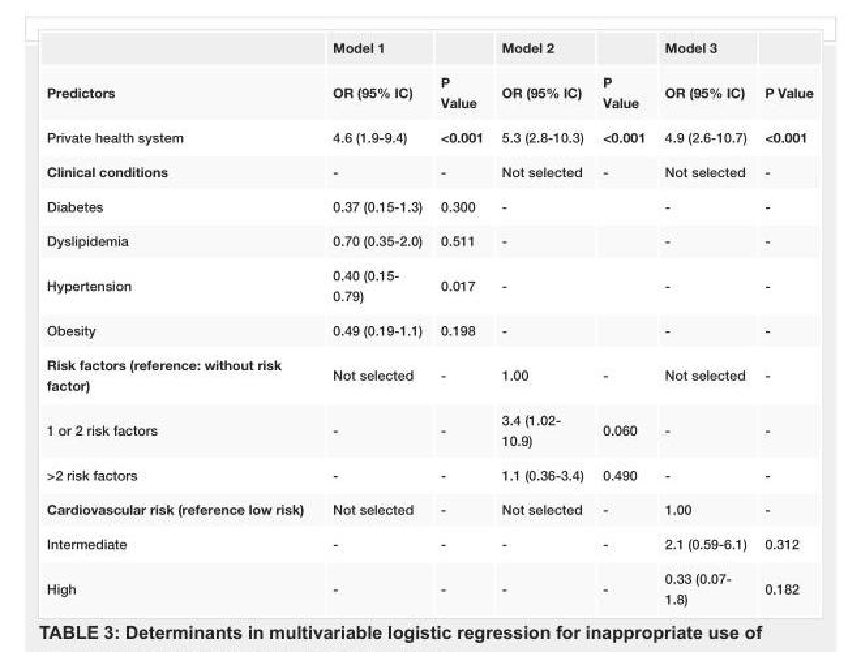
<table><thead><tr><td></td><td>Model 1</td><td></td><td>Model 2</td><td></td><td>Model 3</td><td></td></tr></thead><tbody><tr><td>Predictors</td><td>OR (95% IC)</td><td>P Value</td><td>OR (95% IC)</td><td>P Value</td><td>OR (95% IC)</td><td>P Value</td></tr><tr><td>Private health system</td><td>4.6 (1.9-9.4)</td><td>&lt;0.001</td><td>5.3 (2.8-10.3)</td><td>&lt;0.001</td><td>4.9 (2.6-10.7)</td><td>&lt;0.001</td></tr><tr><td>Clinical conditions</td><td>-</td><td>-</td><td>Not selected</td><td>-</td><td>Not selected</td><td>-</td></tr><tr><td>Diabetes</td><td>0.37 (0.15-1.3)</td><td>0.300</td><td>-</td><td></td><td>-</td><td>-</td></tr><tr><td>Dyslipidemia</td><td>0.70 (0.35-2.0)</td><td>0.511</td><td>-</td><td></td><td>-</td><td>-</td></tr><tr><td>Hypertension</td><td>0.40 (0.15- 0.79)</td><td>0.017</td><td>-</td><td></td><td>-</td><td>-</td></tr><tr><td>Obesity</td><td>0.49 (0.19-1.1)</td><td>0.198</td><td>-</td><td></td><td>-</td><td>-</td></tr><tr><td>Risk factors (reference: without risk factor)</td><td>Not selected</td><td>-</td><td>1.00</td><td>-</td><td>Not selected</td><td>-</td></tr><tr><td>1 or 2 risk factors</td><td>-</td><td>-</td><td>3.4 (1.02- 10.9)</td><td>0.060</td><td>-</td><td>-</td></tr><tr><td>&gt;2 risk factors</td><td>-</td><td>-</td><td>1.1 (0.36-3.4)</td><td>0.490</td><td>-</td><td>-</td></tr><tr><td>Cardiovascular risk (reference low risk)</td><td>Not selected</td><td>-</td><td>Not selected</td><td>-</td><td>1.00</td><td>-</td></tr><tr><td>Intermediate</td><td>-</td><td>-</td><td>-</td><td>-</td><td>2.1 (0.59-6.1)</td><td>0.312</td></tr><tr><td>High</td><td>-</td><td>-</td><td>-</td><td>-</td><td>0.33 (0.07- 1.8)</td><td>0.182</td></tr></tbody></table>